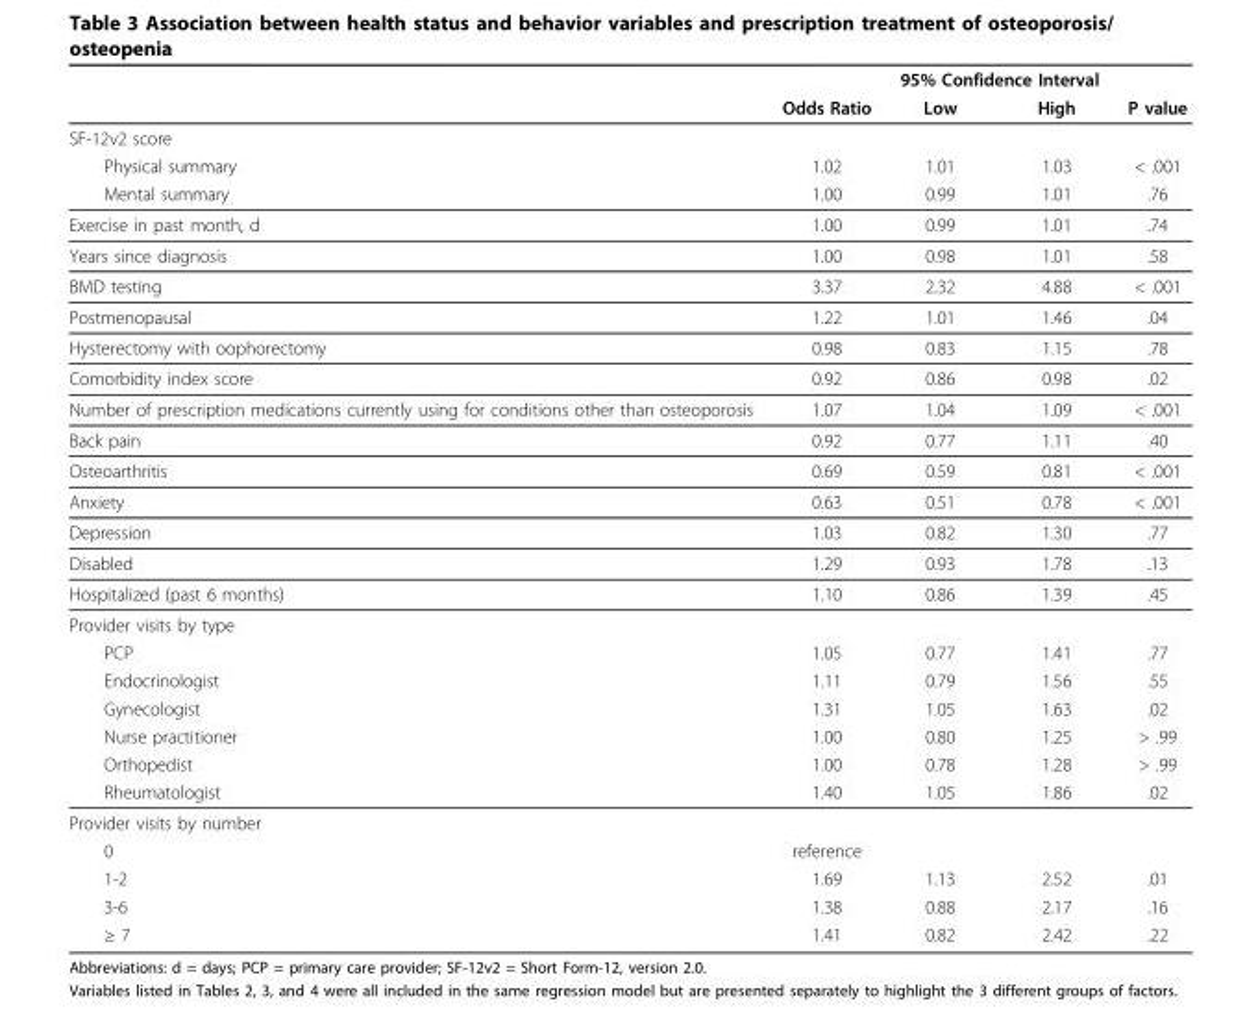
<table><thead><tr><td rowspan="2"></td><td rowspan="2">Odds Ratio</td><td colspan="2">95% Confidence Interval</td><td rowspan="2">P value</td></tr><tr><td>Low</td><td>High</td></tr></thead><tbody><tr><td colspan="5">SF-12v2 score</td></tr><tr><td>Physical summary</td><td>1.02</td><td>1.01</td><td>1.03</td><td>&lt; .001</td></tr><tr><td>Mental summary</td><td>1.00</td><td>0.99</td><td>1.01</td><td>.76</td></tr><tr><td>Exercise in past month, d</td><td>1.00</td><td>0.99</td><td>1.01</td><td>.74</td></tr><tr><td>Years since diagnosis</td><td>1.00</td><td>0.98</td><td>1.01</td><td>.58</td></tr><tr><td>BMD testing</td><td>3.37</td><td>2.32</td><td>4.88</td><td>&lt; .001</td></tr><tr><td>Postmenopausal</td><td>1.22</td><td>1.01</td><td>1.46</td><td>.04</td></tr><tr><td>Hysterectomy with oophorectomy</td><td>0.98</td><td>0.83</td><td>1.15</td><td>.78</td></tr><tr><td>Comorbidity index score</td><td>0.92</td><td>0.86</td><td>0.98</td><td>.02</td></tr><tr><td>Number of prescription medications currently using for conditions other than osteoporosis</td><td>1.07</td><td>1.04</td><td>1.09</td><td>&lt; .001</td></tr><tr><td>Back pain</td><td>0.92</td><td>0.77</td><td>1.11</td><td>.40</td></tr><tr><td>Osteoarthritis</td><td>0.69</td><td>0.59</td><td>0.81</td><td>&lt; .001</td></tr><tr><td>Anxiety</td><td>0.63</td><td>0.51</td><td>0.78</td><td>&lt; .001</td></tr><tr><td>Depression</td><td>1.03</td><td>0.82</td><td>1.30</td><td>.77</td></tr><tr><td>Disabled</td><td>1.29</td><td>0.93</td><td>1.78</td><td>.13</td></tr><tr><td>Hospitalized (past 6 months)</td><td>1.10</td><td>0.86</td><td>1.39</td><td>.45</td></tr><tr><td colspan="5">Provider visits by type</td></tr><tr><td>PCP</td><td>1.05</td><td>0.77</td><td>1.41</td><td>.77</td></tr><tr><td>Endocrinologist</td><td>1.11</td><td>0.79</td><td>1.56</td><td>.55</td></tr><tr><td>Gynecologist</td><td>1.31</td><td>1.05</td><td>1.63</td><td>.02</td></tr><tr><td>Nurse practitioner</td><td>1.00</td><td>0.80</td><td>1.25</td><td>&gt; .99</td></tr><tr><td>Orthopedist</td><td>1.00</td><td>0.78</td><td>1.28</td><td>&gt; .99</td></tr><tr><td>Rheumatologist</td><td>1.40</td><td>1.05</td><td>1.86</td><td>.02</td></tr><tr><td colspan="5">Provider visits by number</td></tr><tr><td>0</td><td>reference</td><td></td><td></td><td></td></tr><tr><td>1-2</td><td>1.69</td><td>1.13</td><td>2.52</td><td>.01</td></tr><tr><td>3-6</td><td>1.38</td><td>0.88</td><td>2.17</td><td>.16</td></tr><tr><td>≥ 7</td><td>1.41</td><td>0.82</td><td>2.42</td><td>.22</td></tr></tbody></table>